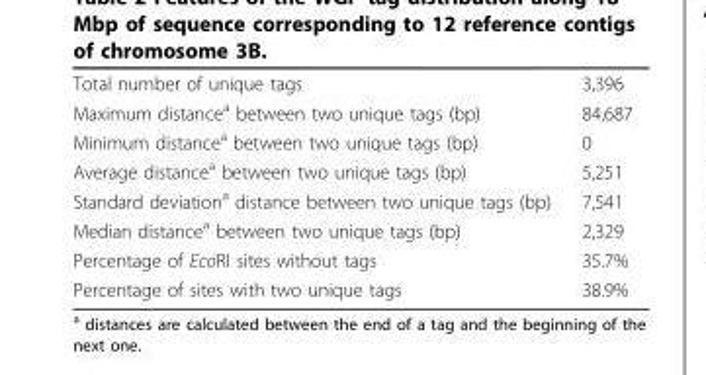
<table><tbody><tr><td>Total number of unique tags</td><td>3,396</td></tr><tr><td>Maximum distance<sup>a</sup> between two unique tags (bp)</td><td>84,687</td></tr><tr><td>Minimum distance<sup>a</sup> between two unique tags (bp)</td><td>0</td></tr><tr><td>Average distance<sup>a</sup> between two unique tags (bp)</td><td>5,251</td></tr><tr><td>Standard deviation<sup>a</sup> distance between two unique tags (bp)</td><td>7,541</td></tr><tr><td>Median distance<sup>a</sup> between two unique tags (bp)</td><td>2,329</td></tr><tr><td>Percentage of EcoRI sites without tags</td><td>35.7%</td></tr><tr><td>Percentage of sites with two unique tags</td><td>38.9%</td></tr></tbody></table>